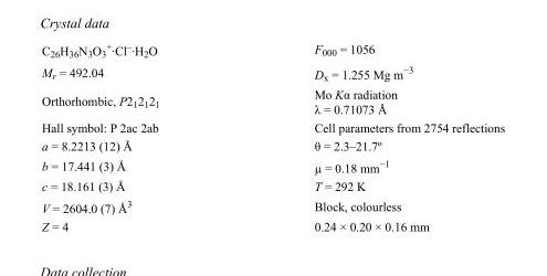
<table><tbody><tr><td>C<sub>26</sub>H<sub>36</sub>N<sub>3</sub>O<sub>3</sub> <sup>+</sup>·Cl<sup>–</sup>·H<sub>2</sub>O</td><td>F<sub>000</sub> = 1056</td></tr><tr><td>M<sub>r</sub> = 492.04</td><td>D<sub>x</sub> = 1.255 Mg m<sup>−3</sup></td></tr><tr><td>Orthorhombic, P2<sub>1</sub>2<sub>1</sub>2<sub>1</sub></td><td>Mo Kα radiation λ = 0.71073 Å</td></tr><tr><td>Hall symbol: P 2ac 2ab</td><td>Cell parameters from 2754 reflections</td></tr><tr><td>a = 8.2213 (12) Å</td><td>θ = 2.3–21.7º</td></tr><tr><td>b = 17.441 (3) Å</td><td>µ = 0.18 mm<sup>−1</sup></td></tr><tr><td>c = 18.161 (3) Å</td><td>T = 292 K</td></tr><tr><td>V = 2604.0 (7) Å<sup>3</sup></td><td>Block, colourless</td></tr><tr><td>Z = 4</td><td>0.24 × 0.20 × 0.16 mm</td></tr></tbody></table>